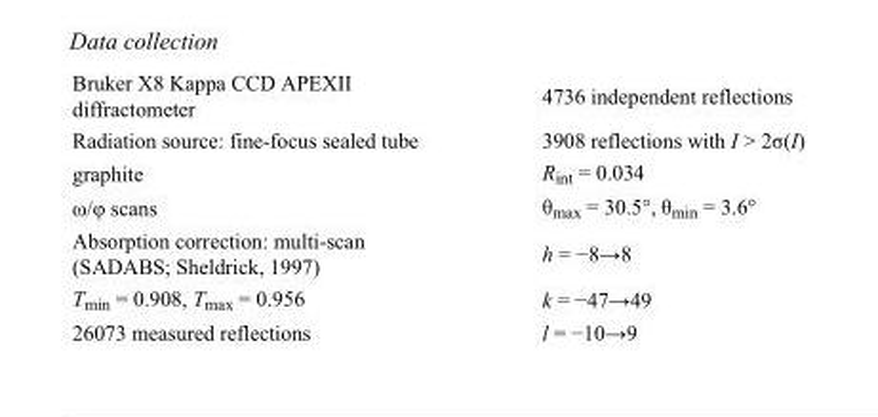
<table><tbody><tr><td>Bruker X8 Kappa CCD APEXII diffractometer</td><td>4736 independent reflections</td></tr><tr><td>Radiation source: fine-focus sealed tube</td><td>3908 reflections with I &gt; 2σ(I)</td></tr><tr><td>graphite</td><td>R<sub>int</sub> = 0.034</td></tr><tr><td>ω/φ scans</td><td>θ<sub>max</sub> = 30.5°, θ<sub>min</sub> = 3.6°</td></tr><tr><td>Absorption correction: multi-scan (SADABS; Sheldrick, 1997)</td><td>h = −8→8</td></tr><tr><td>T<sub>min</sub> = 0.908, T<sub>max</sub> = 0.956</td><td>k = −47→49</td></tr><tr><td>26073 measured reflections</td><td>l = −10→9</td></tr></tbody></table>